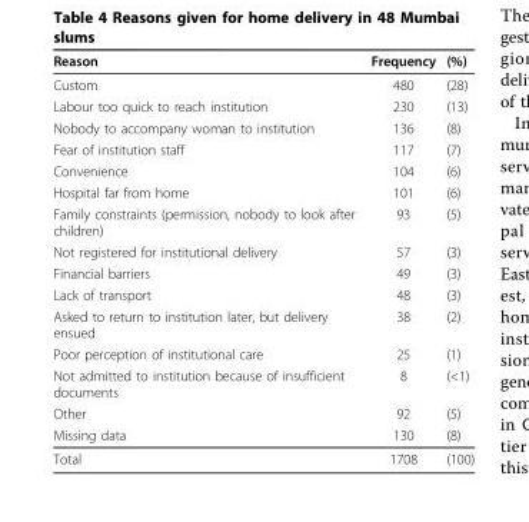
<table><thead><tr><td>Reason</td><td>Frequency</td><td>(%)</td></tr></thead><tbody><tr><td>Custom</td><td>480</td><td>(28)</td></tr><tr><td>Labour too quick to reach institution</td><td>230</td><td>(13)</td></tr><tr><td>Nobody to accompany woman to institution</td><td>136</td><td>(8)</td></tr><tr><td>Fear of institution staff</td><td>117</td><td>(7)</td></tr><tr><td>Convenience</td><td>104</td><td>(6)</td></tr><tr><td>Hospital far from home</td><td>101</td><td>(6)</td></tr><tr><td>Family constraints (permission, nobody to look after children)</td><td>93</td><td>(5)</td></tr><tr><td>Not registered for institutional delivery</td><td>57</td><td>(3)</td></tr><tr><td>Financial barriers</td><td>49</td><td>(3)</td></tr><tr><td>Lack of transport</td><td>48</td><td>(3)</td></tr><tr><td>Asked to return to institution later, but delivery ensued</td><td>38</td><td>(2)</td></tr><tr><td>Poor perception of institutional care</td><td>25</td><td>(1)</td></tr><tr><td>Not admitted to institution because of insufficient documents</td><td>8</td><td>(&lt;1)</td></tr><tr><td>Other</td><td>92</td><td>(5)</td></tr><tr><td>Missing data</td><td>130</td><td>(8)</td></tr><tr><td>Total</td><td>1708</td><td>(100)</td></tr></tbody></table>